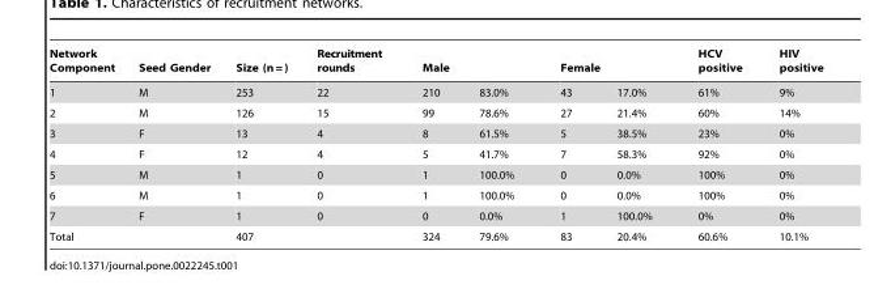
<table><thead><tr><td rowspan="2">Network Component 1</td><td rowspan="2">Seed Gender M</td><td rowspan="2">Size (n = ) 253</td><td rowspan="2">Recruitment rounds 22</td><td colspan="2">Male</td><td colspan="2">Female</td><td rowspan="2">HCV positive 61%</td><td rowspan="2">HIV positive 9%</td></tr><tr><td>210</td><td>83.0%</td><td>43</td><td>17.0%</td></tr></thead><tbody><tr><td>2</td><td>M</td><td>126</td><td>15</td><td>99</td><td>78.6%</td><td>27</td><td>21.4%</td><td>60%</td><td>14%</td></tr><tr><td>3</td><td>F</td><td>13</td><td>4</td><td>8</td><td>61.5%</td><td>5</td><td>38.5%</td><td>23%</td><td>0%</td></tr><tr><td>4</td><td>F</td><td>12</td><td>4</td><td>5</td><td>41.7%</td><td>7</td><td>58.3%</td><td>92%</td><td>0%</td></tr><tr><td>5</td><td>M</td><td>1</td><td>0</td><td>1</td><td>100.0%</td><td>0</td><td>0.0%</td><td>100%</td><td>0%</td></tr><tr><td>6</td><td>M</td><td>1</td><td>0</td><td>1</td><td>100.0%</td><td>0</td><td>0.0%</td><td>100%</td><td>0%</td></tr><tr><td>7</td><td>F</td><td>1</td><td>0</td><td>0</td><td>0.0%</td><td>1</td><td>100.0%</td><td>0%</td><td>0%</td></tr><tr><td>Total</td><td></td><td>407</td><td></td><td>324</td><td>79.6%</td><td>83</td><td>20.4%</td><td>60.6%</td><td>10.1%</td></tr></tbody></table>